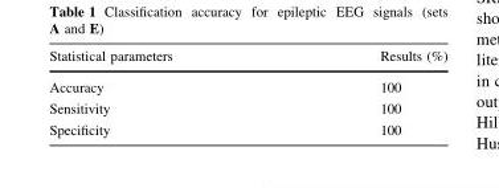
<table><thead><tr><td>Statistical parameters</td><td>Results (%)</td></tr></thead><tbody><tr><td>Accuracy</td><td>100</td></tr><tr><td>Sensitivity</td><td>100</td></tr><tr><td>Specificity</td><td>100</td></tr></tbody></table>